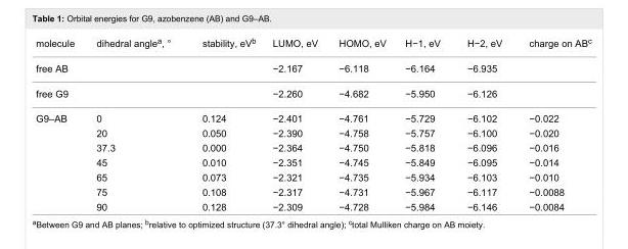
<table><tbody><tr><td>molecule</td><td>dihedral angle<sup>a</sup>, °</td><td>stability, eV<sup>b</sup></td><td>LUMO, eV</td><td>HOMO, eV</td><td>H−1, eV</td><td>H−2, eV</td><td>charge on AB<sup>c</sup></td></tr><tr><td>free AB</td><td></td><td></td><td>−2.167</td><td>−6.118</td><td>−6.164</td><td>−6.935</td><td></td></tr><tr><td>free G9</td><td></td><td></td><td>−2.260</td><td>−4.682</td><td>−5.950</td><td>−6.126</td><td></td></tr><tr><td rowspan="7">G9–AB</td><td>0</td><td>0.124</td><td>−2.401</td><td>−4.761</td><td>−5.729</td><td>−6.102</td><td>−0.022</td></tr><tr><td>20</td><td>0.050</td><td>−2.390</td><td>−4.758</td><td>−5.757</td><td>−6.100</td><td>−0.020</td></tr><tr><td>37.3</td><td>0.000</td><td>−2.364</td><td>−4.750</td><td>−5.818</td><td>−6.096</td><td>−0.016</td></tr><tr><td>45</td><td>0.010</td><td>−2.351</td><td>−4.745</td><td>−5.849</td><td>−6.095</td><td>−0.014</td></tr><tr><td>65</td><td>0.073</td><td>−2.321</td><td>−4.735</td><td>−5.934</td><td>−6.103</td><td>−0.010</td></tr><tr><td>75</td><td>0.108</td><td>−2.317</td><td>−4.731</td><td>−5.967</td><td>−6.117</td><td>−0.0088</td></tr><tr><td>90</td><td>0.128</td><td>−2.309</td><td>−4.728</td><td>−5.984</td><td>−6.146</td><td>−0.0084</td></tr></tbody></table>